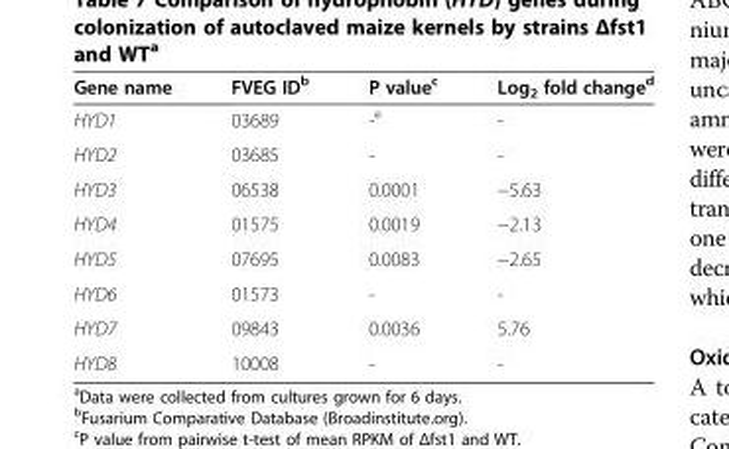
<table><thead><tr><td>Gene name</td><td>FVEG ID<sup>b</sup></td><td>P value<sup>c</sup></td><td>Log<sub>2</sub> fold change<sup>d</sup></td></tr></thead><tbody><tr><td>HYD1</td><td>03689</td><td>-<sup>e</sup></td><td>-</td></tr><tr><td>HYD2</td><td>03685</td><td>-</td><td>-</td></tr><tr><td>HYD3</td><td>06538</td><td>0.0001</td><td>−5.63</td></tr><tr><td>HYD4</td><td>01575</td><td>0.0019</td><td>−2.13</td></tr><tr><td>HYD5</td><td>07695</td><td>0.0083</td><td>−2.65</td></tr><tr><td>HYD6</td><td>01573</td><td>-</td><td>-</td></tr><tr><td>HYD7</td><td>09843</td><td>0.0036</td><td>5.76</td></tr><tr><td>HYD8</td><td>10008</td><td>-</td><td>-</td></tr></tbody></table>